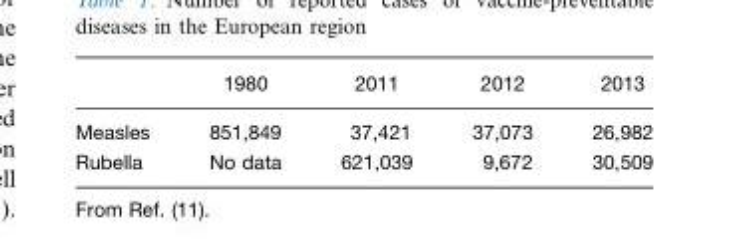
<table><thead><tr><td></td><td>1980</td><td>2011</td><td>2012</td><td>2013</td></tr></thead><tbody><tr><td>Measles</td><td>851,849</td><td>37,421</td><td>37,073</td><td>26,982</td></tr><tr><td>Rubella</td><td>No data</td><td>621,039</td><td>9,672</td><td>30,509</td></tr></tbody></table>